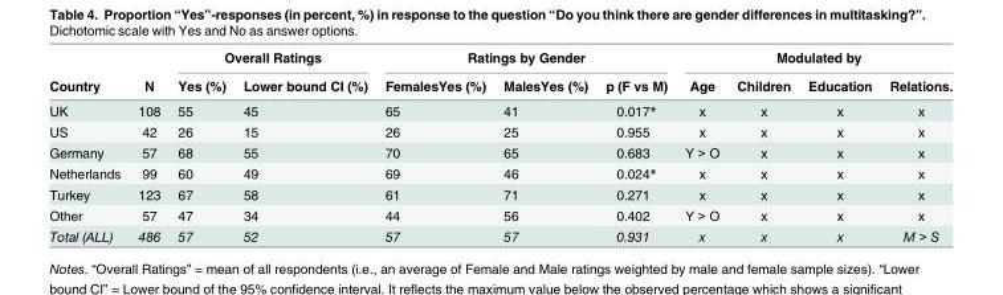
<table><thead><tr><td rowspan="2">Country</td><td rowspan="2">N</td><td colspan="2">Overall Ratings</td><td colspan="3">Ratings by Gender</td><td colspan="4">Modulated by</td></tr><tr><td>Yes (%)</td><td>Lower bound CI (%)</td><td>FemalesYes (%)</td><td>MalesYes (%)</td><td>p (F vs M)</td><td>Age</td><td>Children</td><td>Education</td><td>Relations.</td></tr></thead><tbody><tr><td>UK</td><td>108</td><td>55</td><td>45</td><td>65</td><td>41</td><td>0.017*</td><td>x</td><td>x</td><td>x</td><td>x</td></tr><tr><td>US</td><td>42</td><td>26</td><td>15</td><td>26</td><td>25</td><td>0.955</td><td>x</td><td>x</td><td>x</td><td>x</td></tr><tr><td>Germany</td><td>57</td><td>68</td><td>55</td><td>70</td><td>65</td><td>0.683</td><td>Y &gt; O</td><td>x</td><td>x</td><td>x</td></tr><tr><td>Netherlands</td><td>99</td><td>60</td><td>49</td><td>69</td><td>46</td><td>0.024*</td><td>x</td><td>x</td><td>x</td><td>x</td></tr><tr><td>Turkey</td><td>123</td><td>67</td><td>58</td><td>61</td><td>71</td><td>0.271</td><td>x</td><td>x</td><td>x</td><td>x</td></tr><tr><td>Other</td><td>57</td><td>47</td><td>34</td><td>44</td><td>56</td><td>0.402</td><td>Y &gt; O</td><td>x</td><td>x</td><td>x</td></tr><tr><td>Total (ALL)</td><td>486</td><td>57</td><td>52</td><td>57</td><td>57</td><td>0.931</td><td>x</td><td>x</td><td>x</td><td>M &gt; S</td></tr></tbody></table>